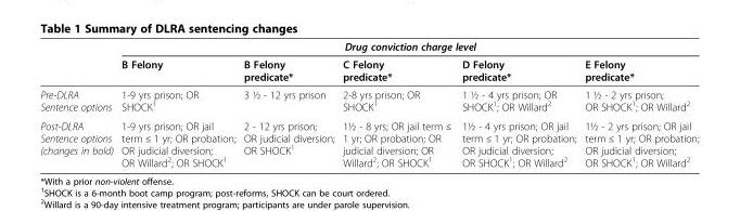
<table><thead><tr><td rowspan="2"></td><td colspan="5">Drug conviction charge level</td></tr><tr><td>B Felony</td><td>B Felony predicate*</td><td>C Felony predicate*</td><td>D Felony predicate*</td><td>E Felony predicate*</td></tr></thead><tbody><tr><td>Pre-DLRA Sentence options</td><td>1-9 yrs prison; OR SHOCK<sup>1</sup></td><td>3 ½ - 12 yrs prison</td><td>2-8 yrs prison; OR SHOCK<sup>1</sup></td><td>1 ½ - 4 yrs prison; OR SHOCK<sup>1</sup>; OR Willard<sup>2</sup></td><td>1 ½ - 2 yrs prison; OR SHOCK<sup>1</sup>; OR Willard<sup>2</sup></td></tr><tr><td>Post-DLRA Sentence options (changes in bold)</td><td>1-9 yrs prison; OR jail term ≤ 1 yr; OR probation; OR judicial diversion; OR Willard<sup>2</sup>; OR SHOCK<sup>1</sup></td><td>2 - 12 yrs prison; OR judicial diversion; OR SHOCK<sup>1</sup></td><td>1½ - 8 yrs; OR jail term ≤ 1 yr; OR probation; OR judicial diversion; OR Willard<sup>2</sup>; OR SHOCK<sup>1</sup></td><td>1½ - 4 yrs prison; OR jail term ≤ 1 yr; OR probation; OR judicial diversion; OR SHOCK<sup>1</sup>; OR Willard<sup>2</sup></td><td>1½ - 2 yrs prison; OR jail term ≤ 1 yr; OR probation; OR judicial diversion; OR SHOCK<sup>1</sup>; OR Willard<sup>2</sup></td></tr></tbody></table>